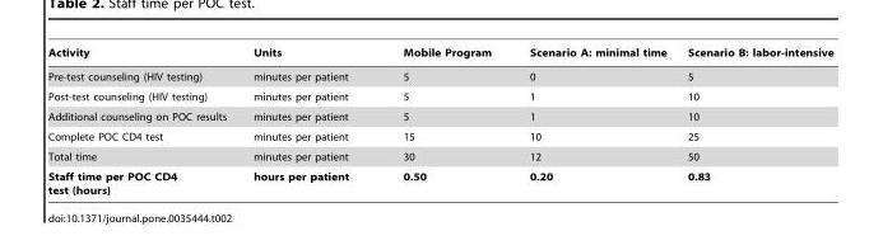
<table><thead><tr><td>Activity</td><td>Units</td><td>Mobile Program</td><td>Scenario A: minimal time</td><td>Scenario B: labor-intensive</td></tr></thead><tbody><tr><td>Pre-test counseling (HIV testing)</td><td>minutes per patient</td><td>5</td><td>0</td><td>5</td></tr><tr><td>Post-test counseling (HIV testing)</td><td>minutes per patient</td><td>5</td><td>1</td><td>10</td></tr><tr><td>Additional counseling on POC results</td><td>minutes per patient</td><td>5</td><td>1</td><td>10</td></tr><tr><td>Complete POC CD4 test</td><td>minutes per patient</td><td>15</td><td>10</td><td>25</td></tr><tr><td>Total time</td><td>minutes per patient</td><td>30</td><td>12</td><td>50</td></tr><tr><td>Staff time per POC CD4 test (hours)</td><td>hours per patient</td><td>0.50</td><td>0.20</td><td>0.83</td></tr></tbody></table>